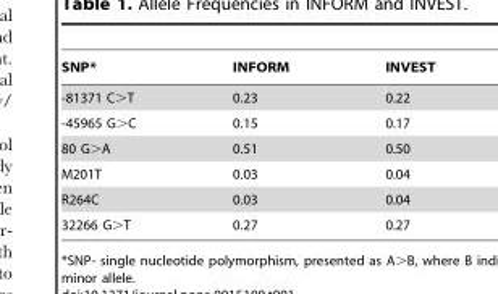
<table><thead><tr><td>SNP*</td><td>INFORM</td><td>INVEST</td></tr></thead><tbody><tr><td>-81371 C&gt;T</td><td>0.23</td><td>0.22</td></tr><tr><td>-45965 G&gt;C</td><td>0.15</td><td>0.17</td></tr><tr><td>80 G&gt;A</td><td>0.51</td><td>0.50</td></tr><tr><td>M201T</td><td>0.03</td><td>0.04</td></tr><tr><td>R264C</td><td>0.03</td><td>0.04</td></tr><tr><td>32266 G&gt;T</td><td>0.27</td><td>0.27</td></tr></tbody></table>